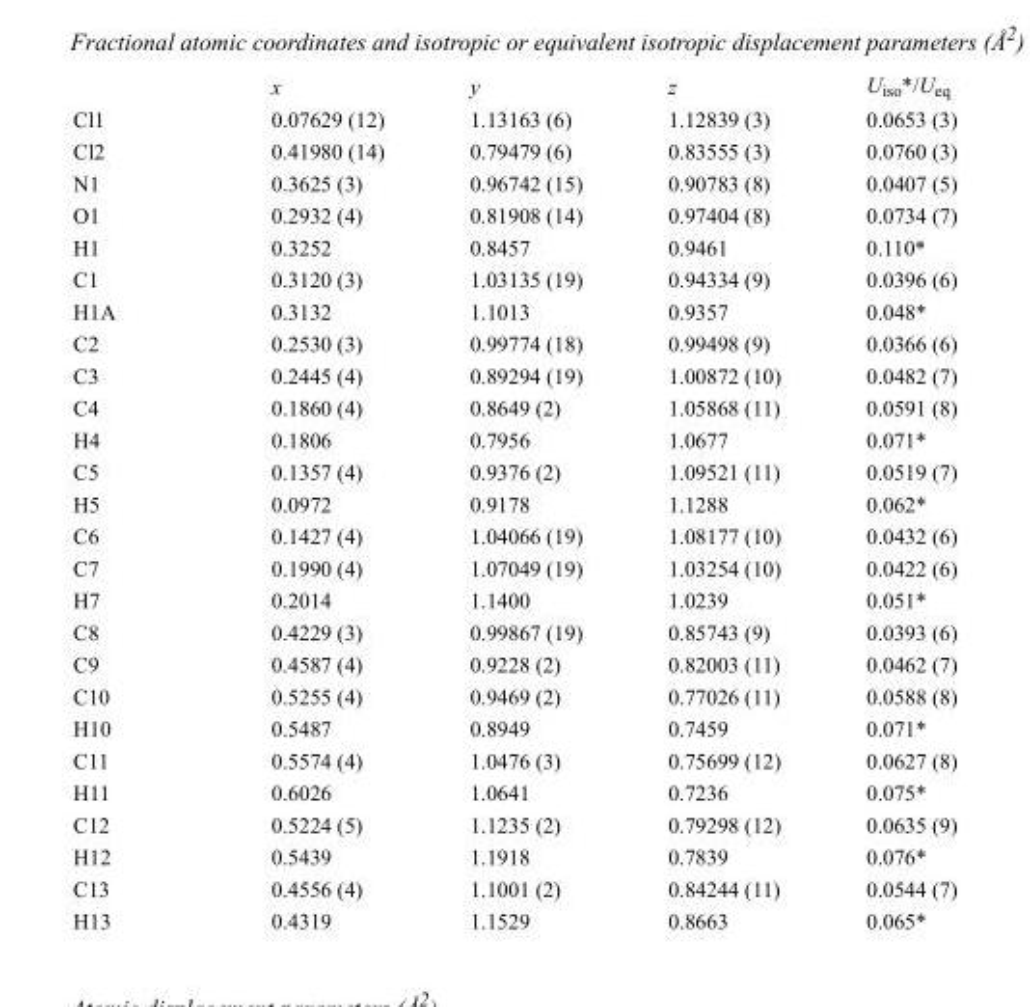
<table><thead><tr><td></td><td>x</td><td>y</td><td>z</td><td>U<sub>iso</sub>*/U<sub>eq</sub></td></tr></thead><tbody><tr><td>Cl1</td><td>0.07629 (12)</td><td>1.13163 (6)</td><td>1.12839 (3)</td><td>0.0653 (3)</td></tr><tr><td>Cl2</td><td>0.41980 (14)</td><td>0.79479 (6)</td><td>0.83555 (3)</td><td>0.0760 (3)</td></tr><tr><td>N1</td><td>0.3625 (3)</td><td>0.96742 (15)</td><td>0.90783 (8)</td><td>0.0407 (5)</td></tr><tr><td>O1</td><td>0.2932 (4)</td><td>0.81908 (14)</td><td>0.97404 (8)</td><td>0.0734 (7)</td></tr><tr><td>H1</td><td>0.3252</td><td>0.8457</td><td>0.9461</td><td>0.110*</td></tr><tr><td>C1</td><td>0.3120 (3)</td><td>1.03135 (19)</td><td>0.94334 (9)</td><td>0.0396 (6)</td></tr><tr><td>H1A</td><td>0.3132</td><td>1.1013</td><td>0.9357</td><td>0.048*</td></tr><tr><td>C2</td><td>0.2530 (3)</td><td>0.99774 (18)</td><td>0.99498 (9)</td><td>0.0366 (6)</td></tr><tr><td>C3</td><td>0.2445 (4)</td><td>0.89294 (19)</td><td>1.00872 (10)</td><td>0.0482 (7)</td></tr><tr><td>C4</td><td>0.1860 (4)</td><td>0.8649 (2)</td><td>1.05868 (11)</td><td>0.0591 (8)</td></tr><tr><td>H4</td><td>0.1806</td><td>0.7956</td><td>1.0677</td><td>0.071*</td></tr><tr><td>C5</td><td>0.1357 (4)</td><td>0.9376 (2)</td><td>1.09521 (11)</td><td>0.0519 (7)</td></tr><tr><td>H5</td><td>0.0972</td><td>0.9178</td><td>1.1288</td><td>0.062*</td></tr><tr><td>C6</td><td>0.1427 (4)</td><td>1.04066 (19)</td><td>1.08177 (10)</td><td>0.0432 (6)</td></tr><tr><td>C7</td><td>0.1990 (4)</td><td>1.07049 (19)</td><td>1.03254 (10)</td><td>0.0422 (6)</td></tr><tr><td>H7</td><td>0.2014</td><td>1.1400</td><td>1.0239</td><td>0.051*</td></tr><tr><td>C8</td><td>0.4229 (3)</td><td>0.99867 (19)</td><td>0.85743 (9)</td><td>0.0393 (6)</td></tr><tr><td>C9</td><td>0.4587 (4)</td><td>0.9228 (2)</td><td>0.82003 (11)</td><td>0.0462 (7)</td></tr><tr><td>C10</td><td>0.5255 (4)</td><td>0.9469 (2)</td><td>0.77026 (11)</td><td>0.0588 (8)</td></tr><tr><td>H10</td><td>0.5487</td><td>0.8949</td><td>0.7459</td><td>0.071*</td></tr><tr><td>C11</td><td>0.5574 (4)</td><td>1.0476 (3)</td><td>0.75699 (12)</td><td>0.0627 (8)</td></tr><tr><td>H11</td><td>0.6026</td><td>1.0641</td><td>0.7236</td><td>0.075*</td></tr><tr><td>C12</td><td>0.5224 (5)</td><td>1.1235 (2)</td><td>0.79298 (12)</td><td>0.0635 (9)</td></tr><tr><td>H12</td><td>0.5439</td><td>1.1918</td><td>0.7839</td><td>0.076*</td></tr><tr><td>C13</td><td>0.4556 (4)</td><td>1.1001 (2)</td><td>0.84244 (11)</td><td>0.0544 (7)</td></tr><tr><td>H13</td><td>0.4319</td><td>1.1529</td><td>0.8663</td><td>0.065*</td></tr></tbody></table>